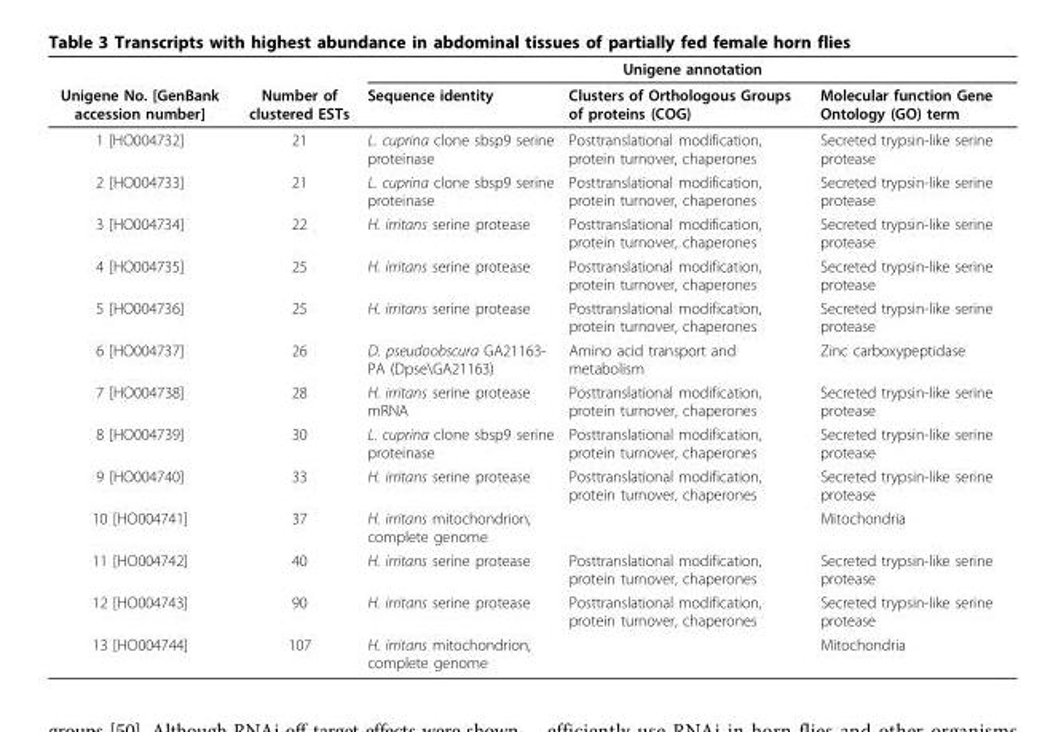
<table><thead><tr><td rowspan="2">Unigene No. [GenBank accession number]</td><td rowspan="2">Number of clustered ESTs</td><td colspan="3">Unigene annotation</td></tr><tr><td>Sequence identity</td><td>Clusters of Orthologous Groups of proteins (COG)</td><td>Molecular function Gene Ontology (GO) term</td></tr></thead><tbody><tr><td>1 [HO004732]</td><td>21</td><td>L. cuprina clone sbsp9 serine proteinase</td><td>Posttranslational modification, protein turnover, chaperones</td><td>Secreted trypsin-like serine protease</td></tr><tr><td>2 [HO004733]</td><td>21</td><td>L. cuprina clone sbsp9 serine proteinase</td><td>Posttranslational modification, protein turnover, chaperones</td><td>Secreted trypsin-like serine protease</td></tr><tr><td>3 [HO004734]</td><td>22</td><td>H. irritans serine protease</td><td>Posttranslational modification, protein turnover, chaperones</td><td>Secreted trypsin-like serine protease</td></tr><tr><td>4 [HO004735]</td><td>25</td><td>H. irritans serine protease</td><td>Posttranslational modification, protein turnover, chaperones</td><td>Secreted trypsin-like serine protease</td></tr><tr><td>5 [HO004736]</td><td>25</td><td>H. irritans serine protease</td><td>Posttranslational modification, protein turnover, chaperones</td><td>Secreted trypsin-like serine protease</td></tr><tr><td>6 [HO004737]</td><td>26</td><td>D. pseudoobscura GA21163- PA (Dpse\GA21163)</td><td>Amino acid transport and metabolism</td><td>Zinc carboxypeptidase</td></tr><tr><td>7 [HO004738]</td><td>28</td><td>H. irritans serine protease mRNA</td><td>Posttranslational modification, protein turnover, chaperones</td><td>Secreted trypsin-like serine protease</td></tr><tr><td>8 [HO004739]</td><td>30</td><td>L. cuprina clone sbsp9 serine proteinase</td><td>Posttranslational modification, protein turnover, chaperones</td><td>Secreted trypsin-like serine protease</td></tr><tr><td>9 [HO004740]</td><td>33</td><td>H. irritans serine protease</td><td>Posttranslational modification, protein turnover, chaperones</td><td>Secreted trypsin-like serine protease</td></tr><tr><td>10 [HO004741]</td><td>37</td><td>H. irritans mitochondrion, complete genome</td><td></td><td>Mitochondria</td></tr><tr><td>11 [HO004742]</td><td>40</td><td>H. irritans serine protease</td><td>Posttranslational modification, protein turnover, chaperones</td><td>Secreted trypsin-like serine protease</td></tr><tr><td>12 [HO004743]</td><td>90</td><td>H. irritans serine protease</td><td>Posttranslational modification, protein turnover, chaperones</td><td>Secreted trypsin-like serine protease</td></tr><tr><td>13 [HO004744]</td><td>107</td><td>H. irritans mitochondrion, complete genome</td><td></td><td>Mitochondria</td></tr></tbody></table>